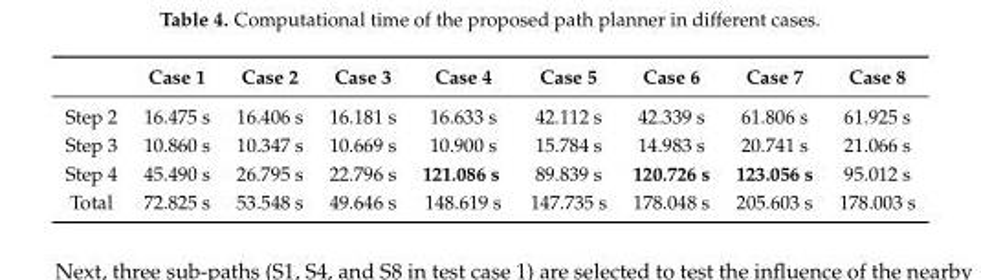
<table><thead><tr><td></td><td>Case 1</td><td>Case 2</td><td>Case 3</td><td>Case 4</td><td>Case 5</td><td>Case 6</td><td>Case 7</td><td>Case 8</td></tr></thead><tbody><tr><td>Step 2</td><td>16.475 s</td><td>16.406 s</td><td>16.181 s</td><td>16.633 s</td><td>42.112 s</td><td>42.339 s</td><td>61.806 s</td><td>61.925 s</td></tr><tr><td>Step 3</td><td>10.860 s</td><td>10.347 s</td><td>10.669 s</td><td>10.900 s</td><td>15.784 s</td><td>14.983 s</td><td>20.741 s</td><td>21.066 s</td></tr><tr><td>Step 4</td><td>45.490 s</td><td>26.795 s</td><td>22.796 s</td><td>121.086 s</td><td>89.839 s</td><td>120.726 s</td><td>123.056 s</td><td>95.012 s</td></tr><tr><td>Total</td><td>72.825 s</td><td>53.548 s</td><td>49.646 s</td><td>148.619 s</td><td>147.735 s</td><td>178.048 s</td><td>205.603 s</td><td>178.003 s</td></tr></tbody></table>